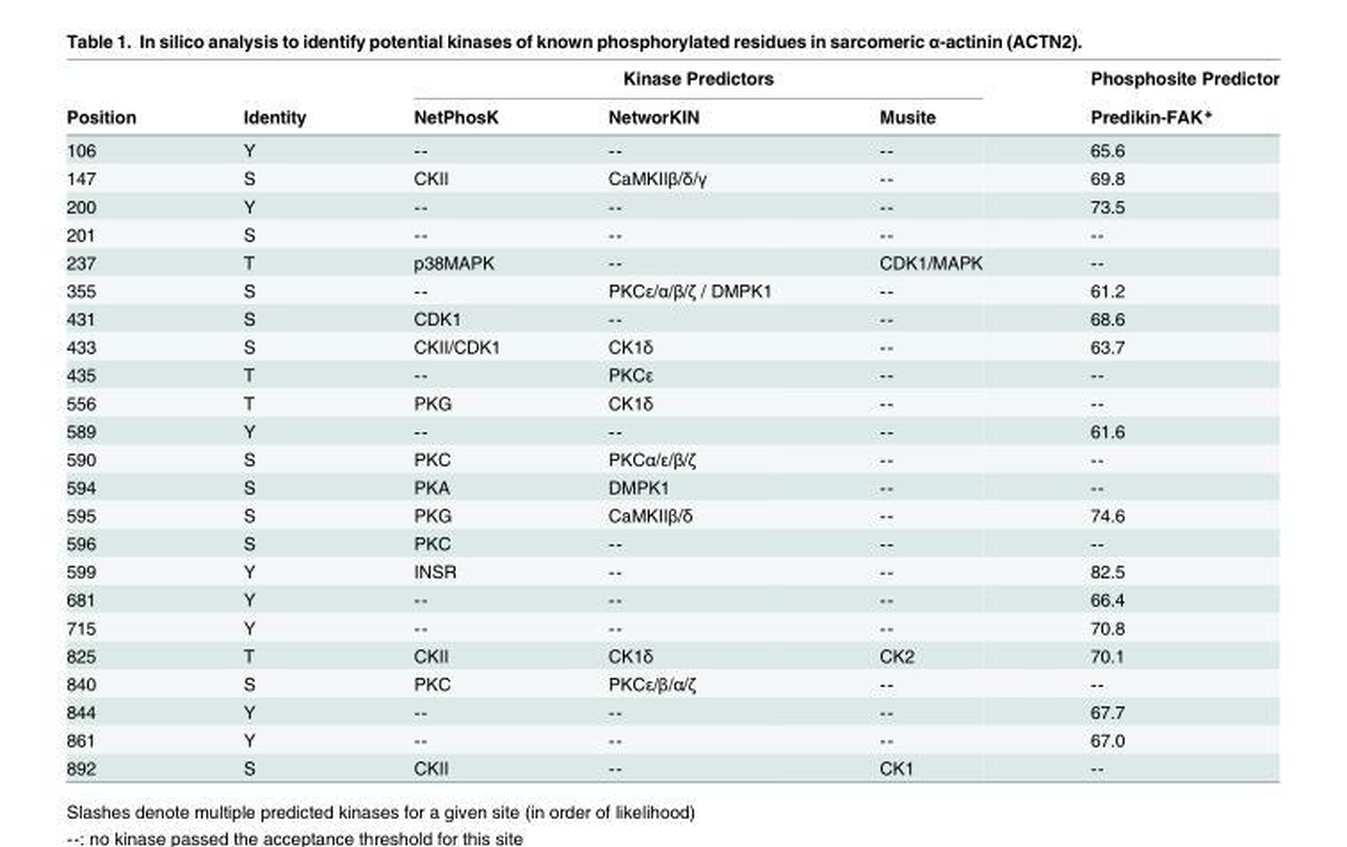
<table><thead><tr><td rowspan="2">Position</td><td rowspan="2">Identity</td><td colspan="3">Kinase Predictors</td><td rowspan="2">Phosphosite Predictor Predikin-FAK*</td></tr><tr><td>NetPhosK</td><td>NetworKIN</td><td>Musite</td></tr></thead><tbody><tr><td>106</td><td>Y</td><td>--</td><td>--</td><td>--</td><td>65.6</td></tr><tr><td>147</td><td>S</td><td>CKII</td><td>CaMKIIβ/δ/γ</td><td>--</td><td>69.8</td></tr><tr><td>200</td><td>Y</td><td>--</td><td>--</td><td>--</td><td>73.5</td></tr><tr><td>201</td><td>S</td><td>--</td><td>--</td><td>--</td><td>--</td></tr><tr><td>237</td><td>T</td><td>p38MAPK</td><td>--</td><td>CDK1/MAPK</td><td>--</td></tr><tr><td>355</td><td>S</td><td>--</td><td>PKCε/α/β/ζ / DMPK1</td><td>--</td><td>61.2</td></tr><tr><td>431</td><td>S</td><td>CDK1</td><td>--</td><td>--</td><td>68.6</td></tr><tr><td>433</td><td>S</td><td>CKII/CDK1</td><td>CK1δ</td><td>--</td><td>63.7</td></tr><tr><td>435</td><td>T</td><td>--</td><td>PKCε</td><td>--</td><td>--</td></tr><tr><td>556</td><td>T</td><td>PKG</td><td>CK1δ</td><td>--</td><td>--</td></tr><tr><td>589</td><td>Y</td><td>--</td><td>--</td><td>--</td><td>61.6</td></tr><tr><td>590</td><td>S</td><td>PKC</td><td>PKCα/ε/β/ζ</td><td>--</td><td>--</td></tr><tr><td>594</td><td>S</td><td>PKA</td><td>DMPK1</td><td>--</td><td>--</td></tr><tr><td>595</td><td>S</td><td>PKG</td><td>CaMKIIβ/δ</td><td>--</td><td>74.6</td></tr><tr><td>596</td><td>S</td><td>PKC</td><td>--</td><td>--</td><td>--</td></tr><tr><td>599</td><td>Y</td><td>INSR</td><td>--</td><td>--</td><td>82.5</td></tr><tr><td>681</td><td>Y</td><td>--</td><td>--</td><td>--</td><td>66.4</td></tr><tr><td>715</td><td>Y</td><td>--</td><td>--</td><td>--</td><td>70.8</td></tr><tr><td>825</td><td>T</td><td>CKII</td><td>CK1δ</td><td>CK2</td><td>70.1</td></tr><tr><td>840</td><td>S</td><td>PKC</td><td>PKCε/β/α/ζ</td><td>--</td><td>--</td></tr><tr><td>844</td><td>Y</td><td>--</td><td>--</td><td>--</td><td>67.7</td></tr><tr><td>861</td><td>Y</td><td>--</td><td>--</td><td>--</td><td>67.0</td></tr><tr><td>892</td><td>S</td><td>CKII</td><td>--</td><td>CK1</td><td>--</td></tr></tbody></table>